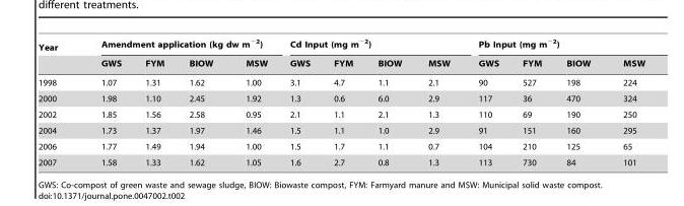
<table><thead><tr><td rowspan="2">Year</td><td colspan="4">Amendment application (kg dw m<sup>−2</sup>)</td><td colspan="4">Cd Input (mg m<sup>−2</sup>)</td><td colspan="4">Pb Input (mg m<sup>−2</sup>)</td></tr><tr><td>GWS</td><td>FYM</td><td>BIOW</td><td>MSW</td><td>GWS</td><td>FYM</td><td>BIOW</td><td>MSW</td><td>GWS</td><td>FYM</td><td>BIOW</td><td>MSW</td></tr></thead><tbody><tr><td>1998</td><td>1.07</td><td>1.31</td><td>1.62</td><td>1.00</td><td>3.1</td><td>4.7</td><td>1.1</td><td>2.1</td><td>90</td><td>527</td><td>198</td><td>224</td></tr><tr><td>2000</td><td>1.98</td><td>1.10</td><td>2.45</td><td>1.92</td><td>1.3</td><td>0.6</td><td>6.0</td><td>2.9</td><td>117</td><td>36</td><td>470</td><td>324</td></tr><tr><td>2002</td><td>1.85</td><td>1.56</td><td>2.58</td><td>0.95</td><td>2.1</td><td>1.1</td><td>2.1</td><td>1.3</td><td>110</td><td>69</td><td>190</td><td>250</td></tr><tr><td>2004</td><td>1.73</td><td>1.37</td><td>1.97</td><td>1.46</td><td>1.5</td><td>1.1</td><td>1.0</td><td>2.9</td><td>91</td><td>151</td><td>160</td><td>295</td></tr><tr><td>2006</td><td>1.77</td><td>1.49</td><td>1.94</td><td>1.00</td><td>1.5</td><td>1.7</td><td>1.1</td><td>0.7</td><td>104</td><td>210</td><td>125</td><td>65</td></tr><tr><td>2007</td><td>1.58</td><td>1.33</td><td>1.62</td><td>1.05</td><td>1.6</td><td>2.7</td><td>0.8</td><td>1.3</td><td>113</td><td>730</td><td>84</td><td>101</td></tr></tbody></table>